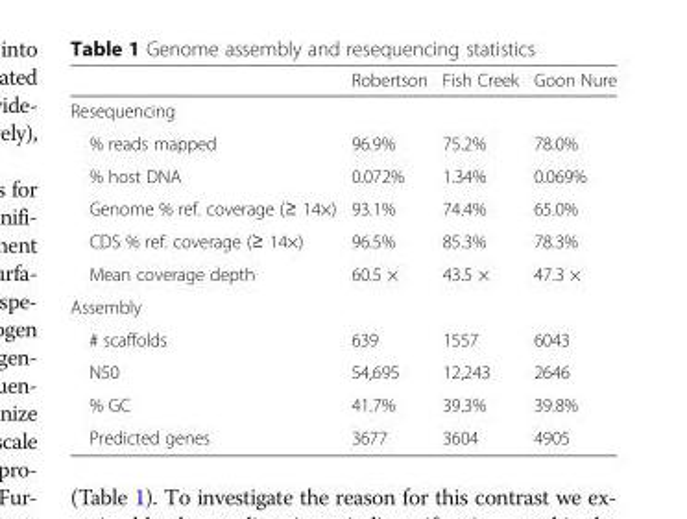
<table><thead><tr><td></td><td>Robertson</td><td>Fish Creek</td><td>Goon Nure</td></tr></thead><tbody><tr><td colspan="4">Resequencing</td></tr><tr><td>% reads mapped</td><td>96.9%</td><td>75.2%</td><td>78.0%</td></tr><tr><td>% host DNA</td><td>0.072%</td><td>1.34%</td><td>0.069%</td></tr><tr><td>Genome % ref. coverage (≥ 14×)</td><td>93.1%</td><td>74.4%</td><td>65.0%</td></tr><tr><td>CDS % ref. coverage (≥ 14×)</td><td>96.5%</td><td>85.3%</td><td>78.3%</td></tr><tr><td>Mean coverage depth</td><td>60.5 ×</td><td>43.5 ×</td><td>47.3 ×</td></tr><tr><td colspan="4">Assembly</td></tr><tr><td># scaffolds</td><td>639</td><td>1557</td><td>6043</td></tr><tr><td>N50</td><td>54,695</td><td>12,243</td><td>2646</td></tr><tr><td>% GC</td><td>41.7%</td><td>39.3%</td><td>39.8%</td></tr><tr><td>Predicted genes</td><td>3677</td><td>3604</td><td>4905</td></tr></tbody></table>